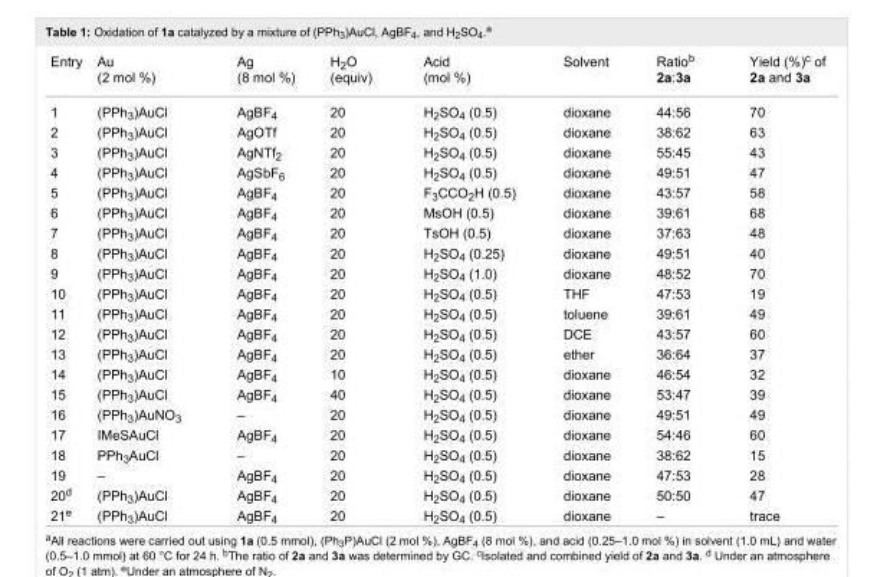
<table><tbody><tr><td>Entry</td><td>Au (2 mol %)</td><td>Ag (8 mol %)</td><td>H<sub>2</sub>O (equiv)</td><td>Acid (mol %)</td><td>Solvent</td><td>Ratio<sup>b</sup> 2a:3a</td><td>Yield (%)<sup>c</sup> of 2a and 3a</td></tr><tr><td>1</td><td>(PPh<sub>3</sub>)AuCl</td><td>AgBF<sub>4</sub></td><td>20</td><td>H<sub>2</sub>SO<sub>4</sub> (0.5)</td><td>dioxane</td><td>44:56</td><td>70</td></tr><tr><td>2</td><td>(PPh<sub>3</sub>)AuCl</td><td>AgOTf</td><td>20</td><td>H<sub>2</sub>SO<sub>4</sub> (0.5)</td><td>dioxane</td><td>38:62</td><td>63</td></tr><tr><td>3</td><td>(PPh<sub>3</sub>)AuCl</td><td>AgNTf<sub>2</sub></td><td>20</td><td>H<sub>2</sub>SO<sub>4</sub> (0.5)</td><td>dioxane</td><td>55:45</td><td>43</td></tr><tr><td>4</td><td>(PPh<sub>3</sub>)AuCl</td><td>AgSbF<sub>6</sub></td><td>20</td><td>H<sub>2</sub>SO<sub>4</sub> (0.5)</td><td>dioxane</td><td>49:51</td><td>47</td></tr><tr><td>5</td><td>(PPh<sub>3</sub>)AuCl</td><td>AgBF<sub>4</sub></td><td>20</td><td>F<sub>3</sub>CCO<sub>2</sub>H (0.5)</td><td>dioxane</td><td>43:57</td><td>58</td></tr><tr><td>6</td><td>(PPh<sub>3</sub>)AuCl</td><td>AgBF<sub>4</sub></td><td>20</td><td>MsOH (0.5)</td><td>dioxane</td><td>39:61</td><td>68</td></tr><tr><td>7</td><td>(PPh<sub>3</sub>)AuCl</td><td>AgBF<sub>4</sub></td><td>20</td><td>TsOH (0.5)</td><td>dioxane</td><td>37:63</td><td>48</td></tr><tr><td>8</td><td>(PPh<sub>3</sub>)AuCl</td><td>AgBF<sub>4</sub></td><td>20</td><td>H<sub>2</sub>SO<sub>4</sub> (0.25)</td><td>dioxane</td><td>49:51</td><td>40</td></tr><tr><td>9</td><td>(PPh<sub>3</sub>)AuCl</td><td>AgBF<sub>4</sub></td><td>20</td><td>H<sub>2</sub>SO<sub>4</sub> (1.0)</td><td>dioxane</td><td>48:52</td><td>70</td></tr><tr><td>10</td><td>(PPh<sub>3</sub>)AuCl</td><td>AgBF<sub>4</sub></td><td>20</td><td>H<sub>2</sub>SO<sub>4</sub> (0.5)</td><td>THF</td><td>47:53</td><td>19</td></tr><tr><td>11</td><td>(PPh<sub>3</sub>)AuCl</td><td>AgBF<sub>4</sub></td><td>20</td><td>H<sub>2</sub>SO<sub>4</sub> (0.5)</td><td>toluene</td><td>39:61</td><td>49</td></tr><tr><td>12</td><td>(PPh<sub>3</sub>)AuCl</td><td>AgBF<sub>4</sub></td><td>20</td><td>H<sub>2</sub>SO<sub>4</sub> (0.5)</td><td>DCE</td><td>43:57</td><td>60</td></tr><tr><td>13</td><td>(PPh<sub>3</sub>)AuCl</td><td>AgBF<sub>4</sub></td><td>20</td><td>H<sub>2</sub>SO<sub>4</sub> (0.5)</td><td>ether</td><td>36:64</td><td>37</td></tr><tr><td>14</td><td>(PPh<sub>3</sub>)AuCl</td><td>AgBF<sub>4</sub></td><td>10</td><td>H<sub>2</sub>SO<sub>4</sub> (0.5)</td><td>dioxane</td><td>46:54</td><td>32</td></tr><tr><td>15</td><td>(PPh<sub>3</sub>)AuCl</td><td>AgBF<sub>4</sub></td><td>40</td><td>H<sub>2</sub>SO<sub>4</sub> (0.5)</td><td>dioxane</td><td>53:47</td><td>39</td></tr><tr><td>16</td><td>(PPh<sub>3</sub>)AuNO<sub>3</sub></td><td>–</td><td>20</td><td>H<sub>2</sub>SO<sub>4</sub> (0.5)</td><td>dioxane</td><td>49:51</td><td>49</td></tr><tr><td>17</td><td>IMeSAuCl</td><td>AgBF<sub>4</sub></td><td>20</td><td>H<sub>2</sub>SO<sub>4</sub> (0.5)</td><td>dioxane</td><td>54:46</td><td>60</td></tr><tr><td>18</td><td>PPh<sub>3</sub>AuCl</td><td>–</td><td>20</td><td>H<sub>2</sub>SO<sub>4</sub> (0.5)</td><td>dioxane</td><td>38:62</td><td>15</td></tr><tr><td>19</td><td>–</td><td>AgBF<sub>4</sub></td><td>20</td><td>H<sub>2</sub>SO<sub>4</sub> (0.5)</td><td>dioxane</td><td>47:53</td><td>28</td></tr><tr><td>20<sup>d</sup></td><td>(PPh<sub>3</sub>)AuCl</td><td>AgBF<sub>4</sub></td><td>20</td><td>H<sub>2</sub>SO<sub>4</sub> (0.5)</td><td>dioxane</td><td>50:50</td><td>47</td></tr><tr><td>21<sup>e</sup></td><td>(PPh<sub>3</sub>)AuCl</td><td>AgBF<sub>4</sub></td><td>20</td><td>H<sub>2</sub>SO<sub>4</sub> (0.5)</td><td>dioxane</td><td>–</td><td>trace</td></tr></tbody></table>